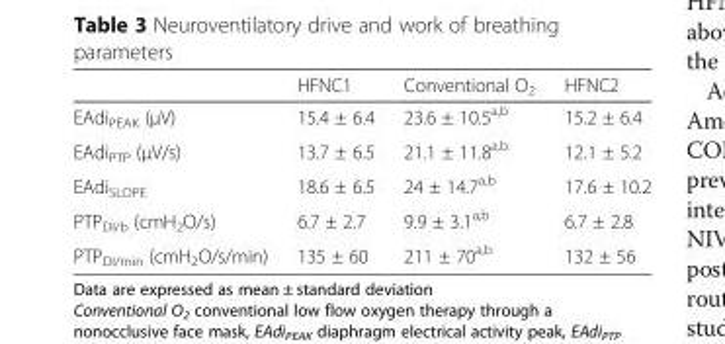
<table><thead><tr><td></td><td>HFNC1</td><td>Conventional O<sub>2</sub></td><td>HFNC2</td></tr></thead><tbody><tr><td>EAdi<sub>PEAK</sub> (μV)</td><td>15.4 ± 6.4</td><td>23.6 ± 10.5<sup>a,b</sup></td><td>15.2 ± 6.4</td></tr><tr><td>EAdi<sub>PTP</sub> (μV/s)</td><td>13.7 ± 6.5</td><td>21.1 ± 11.8<sup>a,b</sup></td><td>12.1 ± 5.2</td></tr><tr><td>EAdi<sub>SLOPE</sub></td><td>18.6 ± 6.5</td><td>24 ± 14.7<sup>a,b</sup></td><td>17.6 ± 10.2</td></tr><tr><td>PTP<sub>DI/b</sub> (cmH<sub>2</sub>O/s)</td><td>6.7 ± 2.7</td><td>9.9 ± 3.1<sup>a,b</sup></td><td>6.7 ± 2.8</td></tr><tr><td>PTP<sub>DI/min</sub> (cmH<sub>2</sub>O/s/min)</td><td>135 ± 60</td><td>211 ± 70<sup>a,b</sup></td><td>132 ± 56</td></tr></tbody></table>